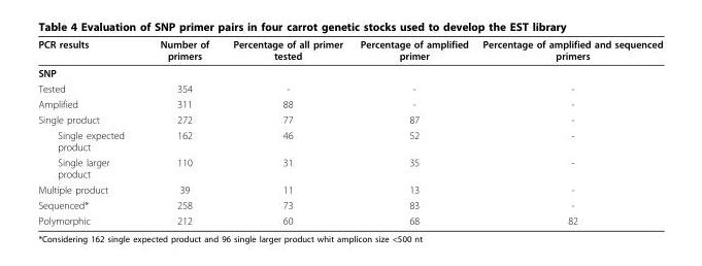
<table><thead><tr><td>PCR results</td><td>Number of primers</td><td>Percentage of all primer tested</td><td>Percentage of amplified primer</td><td>Percentage of amplified and sequenced primers</td></tr></thead><tbody><tr><td colspan="5">SNP</td></tr><tr><td>Tested</td><td>354</td><td>-</td><td>-</td><td>-</td></tr><tr><td>Amplified</td><td>311</td><td>88</td><td>-</td><td>-</td></tr><tr><td>Single product</td><td>272</td><td>77</td><td>87</td><td>-</td></tr><tr><td>Single expected product</td><td>162</td><td>46</td><td>52</td><td>-</td></tr><tr><td>Single larger product</td><td>110</td><td>31</td><td>35</td><td>-</td></tr><tr><td>Multiple product</td><td>39</td><td>11</td><td>13</td><td>-</td></tr><tr><td>Sequenced*</td><td>258</td><td>73</td><td>83</td><td>-</td></tr><tr><td>Polymorphic</td><td>212</td><td>60</td><td>68</td><td>82</td></tr></tbody></table>